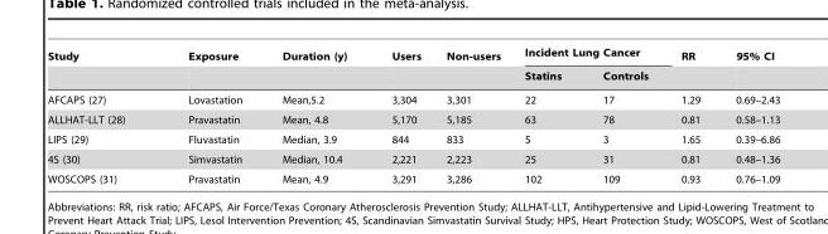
<table><thead><tr><td rowspan="2">Study</td><td rowspan="2">Exposure</td><td rowspan="2">Duration (y)</td><td rowspan="2">Users</td><td rowspan="2">Non-users</td><td colspan="2">Incident Lung Cancer</td><td rowspan="2">RR</td><td rowspan="2">95% CI</td></tr><tr><td>Statins</td><td>Controls</td></tr></thead><tbody><tr><td>AFCAPS (27)</td><td>Lovastation</td><td>Mean,5.2</td><td>3,304</td><td>3,301</td><td>22</td><td>17</td><td>1.29</td><td>0.69–2.43</td></tr><tr><td>ALLHAT-LLT (28)</td><td>Pravastatin</td><td>Mean, 4.8</td><td>5,170</td><td>5,185</td><td>63</td><td>78</td><td>0.81</td><td>0.58–1.13</td></tr><tr><td>LIPS (29)</td><td>Fluvastatin</td><td>Median, 3.9</td><td>844</td><td>833</td><td>5</td><td>3</td><td>1.65</td><td>0.39–6.86</td></tr><tr><td>4S (30)</td><td>Simvastatin</td><td>Median, 10.4</td><td>2,221</td><td>2,223</td><td>25</td><td>31</td><td>0.81</td><td>0.48–1.36</td></tr><tr><td>WOSCOPS (31)</td><td>Pravastatin</td><td>Mean, 4.9</td><td>3,291</td><td>3,286</td><td>102</td><td>109</td><td>0.93</td><td>0.76–1.09</td></tr></tbody></table>